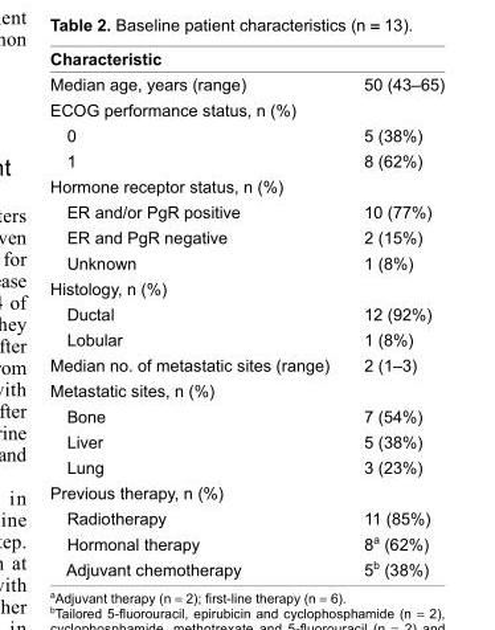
<table><thead><tr><td>Characteristic</td><td></td></tr></thead><tbody><tr><td>Median age, years (range)</td><td>50 (43–65)</td></tr><tr><td colspan="2">ECOG performance status, n (%)</td></tr><tr><td>0</td><td>5 (38%)</td></tr><tr><td>1</td><td>8 (62%)</td></tr><tr><td colspan="2">Hormone receptor status, n (%)</td></tr><tr><td>ER and/or PgR positive</td><td>10 (77%)</td></tr><tr><td>ER and PgR negative</td><td>2 (15%)</td></tr><tr><td>Unknown</td><td>1 (8%)</td></tr><tr><td colspan="2">Histology, n (%)</td></tr><tr><td>Ductal</td><td>12 (92%)</td></tr><tr><td>Lobular</td><td>1 (8%)</td></tr><tr><td>Median no. of metastatic sites (range)</td><td>2 (1–3)</td></tr><tr><td colspan="2">Metastatic sites, n (%)</td></tr><tr><td>Bone</td><td>7 (54%)</td></tr><tr><td>Liver</td><td>5 (38%)</td></tr><tr><td>Lung</td><td>3 (23%)</td></tr><tr><td colspan="2">Previous therapy, n (%)</td></tr><tr><td>Radiotherapy</td><td>11 (85%)</td></tr><tr><td>Hormonal therapy</td><td>8<sup>a</sup> (62%)</td></tr><tr><td>Adjuvant chemotherapy</td><td>5<sup>b</sup> (38%)</td></tr></tbody></table>